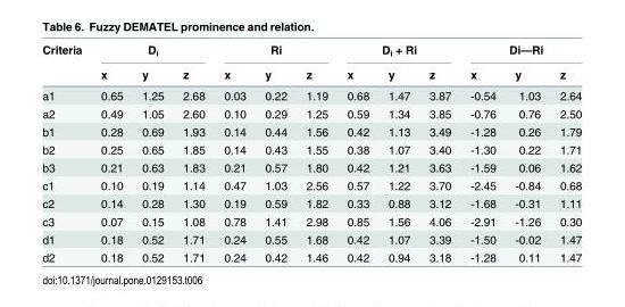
<table><thead><tr><td rowspan="2">Criteria</td><td colspan="3">D<sub>i</sub></td><td colspan="3">Ri</td><td colspan="3">D<sub>i</sub> + Ri</td><td colspan="3">Di—Ri</td></tr><tr><td>x</td><td>y</td><td>z</td><td>x</td><td>y</td><td>z</td><td>x</td><td>y</td><td>z</td><td>x</td><td>y</td><td>z</td></tr></thead><tbody><tr><td>a1</td><td>0.65</td><td>1.25</td><td>2.68</td><td>0.03</td><td>0.22</td><td>1.19</td><td>0.68</td><td>1.47</td><td>3.87</td><td>-0.54</td><td>1.03</td><td>2.64</td></tr><tr><td>a2</td><td>0.49</td><td>1.05</td><td>2.60</td><td>0.10</td><td>0.29</td><td>1.25</td><td>0.59</td><td>1.34</td><td>3.85</td><td>-0.76</td><td>0.76</td><td>2.50</td></tr><tr><td>b1</td><td>0.28</td><td>0.69</td><td>1.93</td><td>0.14</td><td>0.44</td><td>1.56</td><td>0.42</td><td>1.13</td><td>3.49</td><td>-1.28</td><td>0.26</td><td>1.79</td></tr><tr><td>b2</td><td>0.25</td><td>0.65</td><td>1.85</td><td>0.14</td><td>0.43</td><td>1.55</td><td>0.38</td><td>1.07</td><td>3.40</td><td>-1.30</td><td>0.22</td><td>1.71</td></tr><tr><td>b3</td><td>0.21</td><td>0.63</td><td>1.83</td><td>0.21</td><td>0.57</td><td>1.80</td><td>0.42</td><td>1.21</td><td>3.63</td><td>-1.59</td><td>0.06</td><td>1.62</td></tr><tr><td>c1</td><td>0.10</td><td>0.19</td><td>1.14</td><td>0.47</td><td>1.03</td><td>2.56</td><td>0.57</td><td>1.22</td><td>3.70</td><td>-2.45</td><td>-0.84</td><td>0.68</td></tr><tr><td>c2</td><td>0.14</td><td>0.28</td><td>1.30</td><td>0.19</td><td>0.59</td><td>1.82</td><td>0.33</td><td>0.88</td><td>3.12</td><td>-1.68</td><td>-0.31</td><td>1.11</td></tr><tr><td>c3</td><td>0.07</td><td>0.15</td><td>1.08</td><td>0.78</td><td>1.41</td><td>2.98</td><td>0.85</td><td>1.56</td><td>4.06</td><td>-2.91</td><td>-1.26</td><td>0.30</td></tr><tr><td>d1</td><td>0.18</td><td>0.52</td><td>1.71</td><td>0.24</td><td>0.55</td><td>1.68</td><td>0.42</td><td>1.07</td><td>3.39</td><td>-1.50</td><td>-0.02</td><td>1.47</td></tr><tr><td>d2</td><td>0.18</td><td>0.52</td><td>1.71</td><td>0.24</td><td>0.42</td><td>1.46</td><td>0.42</td><td>0.94</td><td>3.18</td><td>-1.28</td><td>0.11</td><td>1.47</td></tr></tbody></table>